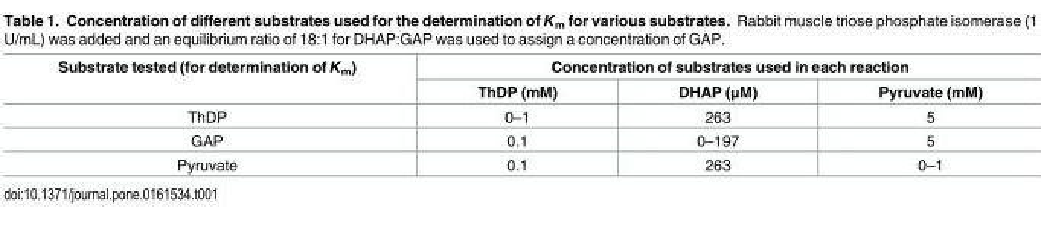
<table><thead><tr><td rowspan="2">Substrate tested (for determination of K<sub>m</sub>)</td><td colspan="3">Concentration of substrates used in each reaction</td></tr><tr><td>ThDP (mM)</td><td>DHAP (μM)</td><td>Pyruvate (mM)</td></tr></thead><tbody><tr><td>ThDP</td><td>0–1</td><td>263</td><td>5</td></tr><tr><td>GAP</td><td>0.1</td><td>0–197</td><td>5</td></tr><tr><td>Pyruvate</td><td>0.1</td><td>263</td><td>0–1</td></tr></tbody></table>